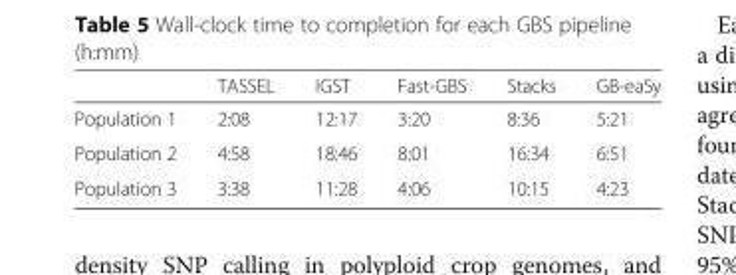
<table><thead><tr><td></td><td>TASSEL</td><td>IGST</td><td>Fast-GBS</td><td>Stacks</td><td>GB-eaSy</td></tr></thead><tbody><tr><td>Population 1</td><td>2:08</td><td>12:17</td><td>3:20</td><td>8:36</td><td>5:21</td></tr><tr><td>Population 2</td><td>4:58</td><td>18:46</td><td>8:01</td><td>16:34</td><td>6:51</td></tr><tr><td>Population 3</td><td>3:38</td><td>11:28</td><td>4:06</td><td>10:15</td><td>4:23</td></tr></tbody></table>